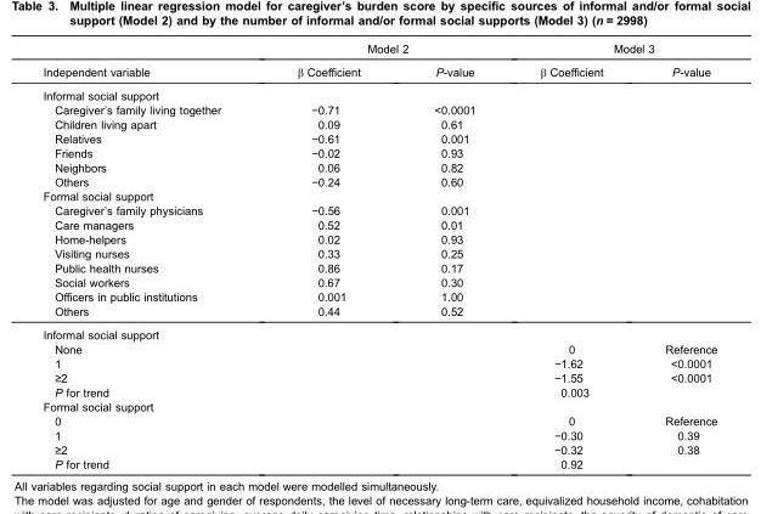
<table><thead><tr><td rowspan="2">Independent variable</td><td colspan="2">Model 2</td><td colspan="2">Model 3</td></tr><tr><td>β Coefficient</td><td>P-value</td><td>β Coefficient</td><td>P-value</td></tr></thead><tbody><tr><td colspan="5">Informal social support</td></tr><tr><td>Caregiver’s family living together</td><td>−0.71</td><td>&lt;0.0001</td><td></td><td></td></tr><tr><td>Children living apart</td><td>0.09</td><td>0.61</td><td></td><td></td></tr><tr><td>Relatives</td><td>−0.61</td><td>0.001</td><td></td><td></td></tr><tr><td>Friends</td><td>−0.02</td><td>0.93</td><td></td><td></td></tr><tr><td>Neighbors</td><td>0.06</td><td>0.82</td><td></td><td></td></tr><tr><td>Others</td><td>−0.24</td><td>0.60</td><td></td><td></td></tr><tr><td colspan="5">Formal social support</td></tr><tr><td>Caregiver’s family physicians</td><td>−0.56</td><td>0.001</td><td></td><td></td></tr><tr><td>Care managers</td><td>0.52</td><td>0.01</td><td></td><td></td></tr><tr><td>Home-helpers</td><td>0.02</td><td>0.93</td><td></td><td></td></tr><tr><td>Visiting nurses</td><td>0.33</td><td>0.25</td><td></td><td></td></tr><tr><td>Public health nurses</td><td>0.86</td><td>0.17</td><td></td><td></td></tr><tr><td>Social workers</td><td>0.67</td><td>0.30</td><td></td><td></td></tr><tr><td>Officers in public institutions</td><td>0.001</td><td>1.00</td><td></td><td></td></tr><tr><td>Others</td><td>0.44</td><td>0.52</td><td></td><td></td></tr><tr><td colspan="5">Informal social support</td></tr><tr><td>None</td><td></td><td></td><td>0</td><td>Reference</td></tr><tr><td>1</td><td></td><td></td><td>−1.62</td><td>&lt;0.0001</td></tr><tr><td>≥2</td><td></td><td></td><td>−1.55</td><td>&lt;0.0001</td></tr><tr><td>P for trend</td><td></td><td></td><td>0.003</td><td></td></tr><tr><td colspan="5">Formal social support</td></tr><tr><td>0</td><td></td><td></td><td>0</td><td>Reference</td></tr><tr><td>1</td><td></td><td></td><td>−0.30</td><td>0.39</td></tr><tr><td>≥2</td><td></td><td></td><td>−0.32</td><td>0.38</td></tr><tr><td>P for trend</td><td></td><td></td><td>0.92</td><td></td></tr></tbody></table>